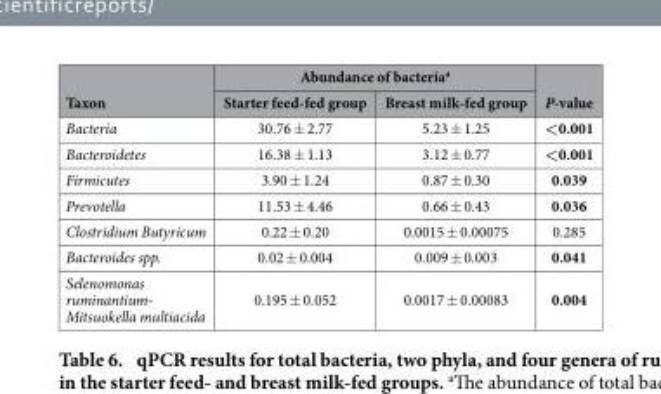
<table><thead><tr><td rowspan="2">Taxon</td><td colspan="2">Abundance of bacteria<sup>a</sup></td><td rowspan="2">P-value</td></tr><tr><td>Starter feed-fed group</td><td>Breast milk-fed group</td></tr></thead><tbody><tr><td>Bacteria</td><td>30.76 ± 2.77</td><td>5.23 ± 1.25</td><td>&lt;0.001</td></tr><tr><td>Bacteroidetes</td><td>16.38 ± 1.13</td><td>3.12 ± 0.77</td><td>&lt;0.001</td></tr><tr><td>Firmicutes</td><td>3.90 ± 1.24</td><td>0.87 ± 0.30</td><td>0.039</td></tr><tr><td>Prevotella</td><td>11.53 ± 4.46</td><td>0.66 ± 0.43</td><td>0.036</td></tr><tr><td>Clostridium Butyricum</td><td>0.22 ± 0.20</td><td>0.0015 ± 0.00075</td><td>0.285</td></tr><tr><td>Bacteroides spp.</td><td>0.02 ± 0.004</td><td>0.009 ± 0.003</td><td>0.041</td></tr><tr><td>Selenomonas ruminantium- Mitsuokella multiacida</td><td>0.195 ± 0.052</td><td>0.0017 ± 0.00083</td><td>0.004</td></tr></tbody></table>